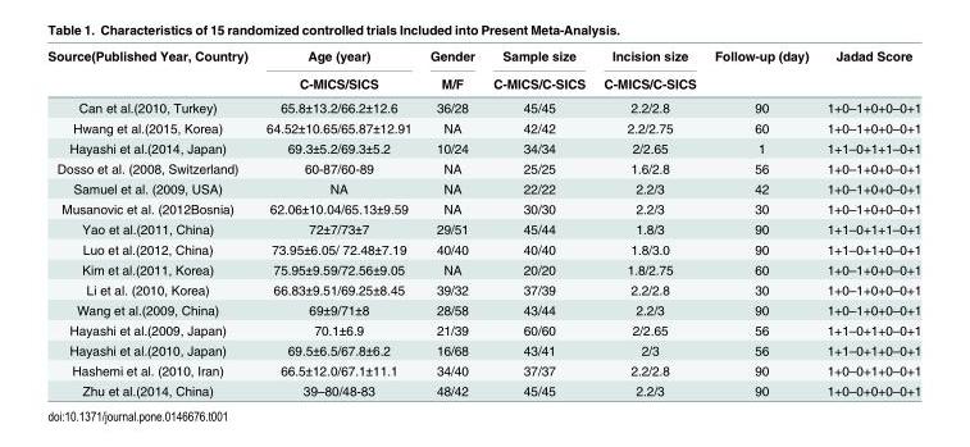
<table><thead><tr><td rowspan="2">Source(Published Year, Country)</td><td rowspan="2">Age (year) C-MICS/SICS</td><td rowspan="2">Gender M/F</td><td rowspan="2">Sample size C-MICS/C-SICS</td><td rowspan="2">Incision size C-MICS/C-SICS</td><td rowspan="2">Follow-up (day)</td><td rowspan="2">Jadad Score</td></tr><tr></tr></thead><tbody><tr><td>Can et al.(2010, Turkey)</td><td>65.8±13.2/66.2±12.6</td><td>36/28</td><td>45/45</td><td>2.2/2.8</td><td>90</td><td>1+0–1+0+0–0+1</td></tr><tr><td>Hwang et al.(2015, Korea)</td><td>64.52±10.65/65.87±12.91</td><td>NA</td><td>42/42</td><td>2.2/2.75</td><td>60</td><td>1+0–1+0+0–0+1</td></tr><tr><td>Hayashi et al.(2014, Japan)</td><td>69.3±5.2/69.3±5.2</td><td>10/24</td><td>34/34</td><td>2/2.65</td><td>1</td><td>1+1–0+1+1–0+1</td></tr><tr><td>Dosso et al. (2008, Switzerland)</td><td>60-87/60-89</td><td>NA</td><td>25/25</td><td>1.6/2.8</td><td>56</td><td>1+0–1+0+0–0+1</td></tr><tr><td>Samuel et al. (2009, USA)</td><td>NA</td><td>NA</td><td>22/22</td><td>2.2/3</td><td>42</td><td>1+0–1+0+0–0+1</td></tr><tr><td>Musanovic et al. (2012Bosnia)</td><td>62.06±10.04/65.13±9.59</td><td>NA</td><td>30/30</td><td>2.2/3</td><td>30</td><td>1+0–1+0+0–0+1</td></tr><tr><td>Yao et al.(2011, China)</td><td>72±7/73±7</td><td>29/51</td><td>45/44</td><td>1.8/3</td><td>90</td><td>1+1–0+1+1–0+1</td></tr><tr><td>Luo et al.(2012, China)</td><td>73.95±6.05/ 72.48±7.19</td><td>40/40</td><td>40/40</td><td>1.8/3.0</td><td>90</td><td>1+1–0+1+0–0+1</td></tr><tr><td>Kim et al.(2011, Korea)</td><td>75.95±9.59/72.56±9.05</td><td>NA</td><td>20/20</td><td>1.8/2.75</td><td>60</td><td>1+0–1+0+0–0+1</td></tr><tr><td>Li et al. (2010, Korea)</td><td>66.83±9.51/69.25±8.45</td><td>39/32</td><td>37/39</td><td>2.2/2.8</td><td>30</td><td>1+0–1+0+0–0+1</td></tr><tr><td>Wang et al.(2009, China)</td><td>69±9/71±8</td><td>28/58</td><td>43/44</td><td>2.2/3</td><td>90</td><td>1+0–1+0+0–0+1</td></tr><tr><td>Hayashi et al.(2009, Japan)</td><td>70.1±6.9</td><td>21/39</td><td>60/60</td><td>2/2.65</td><td>56</td><td>1+1–0+1+0–0+1</td></tr><tr><td>Hayashi et al.(2010, Japan)</td><td>69.5±6.5/67.8±6.2</td><td>16/68</td><td>43/41</td><td>2/3</td><td>56</td><td>1+1–0+1+0–0+1</td></tr><tr><td>Hashemi et al. (2010, Iran)</td><td>66.5±12.0/67.1±11.1</td><td>34/40</td><td>37/37</td><td>2.2/2.8</td><td>90</td><td>1+0–0+1+0–0+1</td></tr><tr><td>Zhu et al.(2014, China)</td><td>39–80/48-83</td><td>48/42</td><td>45/45</td><td>2.2/3</td><td>90</td><td>1+0–0+0+0–0+1</td></tr></tbody></table>